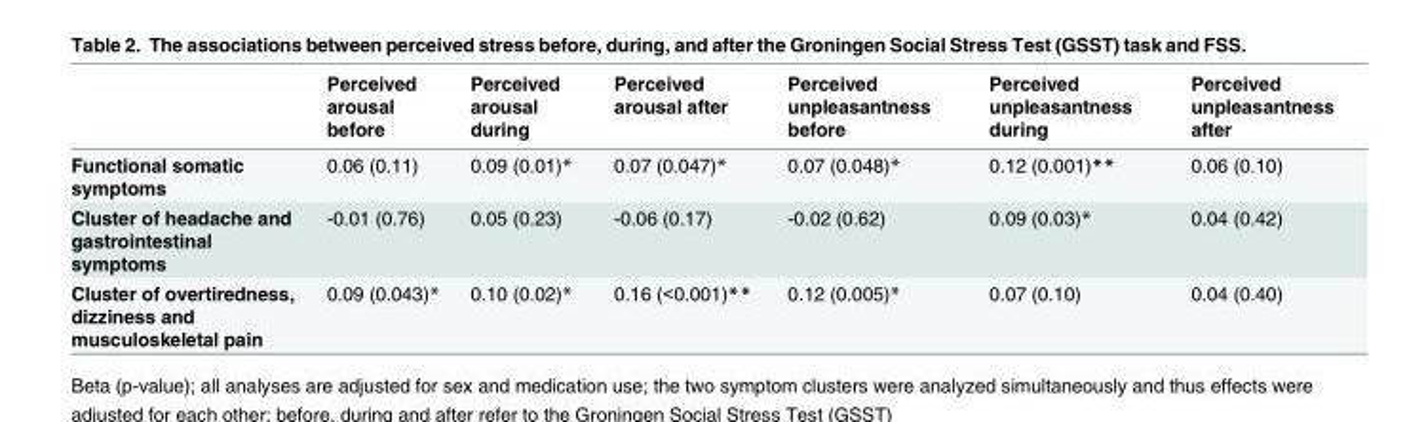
<table><thead><tr><td></td><td>Perceived arousal before</td><td>Perceived arousal during</td><td>Perceived arousal after</td><td>Perceived unpleasantness before</td><td>Perceived unpleasantness during</td><td>Perceived unpleasantness after</td></tr></thead><tbody><tr><td>Functional somatic symptoms</td><td>0.06 (0.11)</td><td>0.09 (0.01)*</td><td>0.07 (0.047)*</td><td>0.07 (0.048)*</td><td>0.12 (0.001)**</td><td>0.06 (0.10)</td></tr><tr><td>Cluster of headache and gastrointestinal symptoms</td><td>-0.01 (0.76)</td><td>0.05 (0.23)</td><td>-0.06 (0.17)</td><td>-0.02 (0.62)</td><td>0.09 (0.03)*</td><td>0.04 (0.42)</td></tr><tr><td>Cluster of overtiredness, dizziness and musculoskeletal pain</td><td>0.09 (0.043)*</td><td>0.10 (0.02)*</td><td>0.16 (&lt;0.001)**</td><td>0.12 (0.005)*</td><td>0.07 (0.10)</td><td>0.04 (0.40)</td></tr></tbody></table>